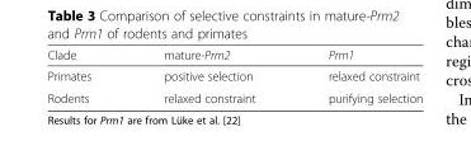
<table><thead><tr><td>Clade</td><td>mature-Prm2</td><td>Prm1</td></tr></thead><tbody><tr><td>Primates</td><td>positive selection</td><td>relaxed constraint</td></tr><tr><td>Rodents</td><td>relaxed constraint</td><td>purifying selection</td></tr></tbody></table>